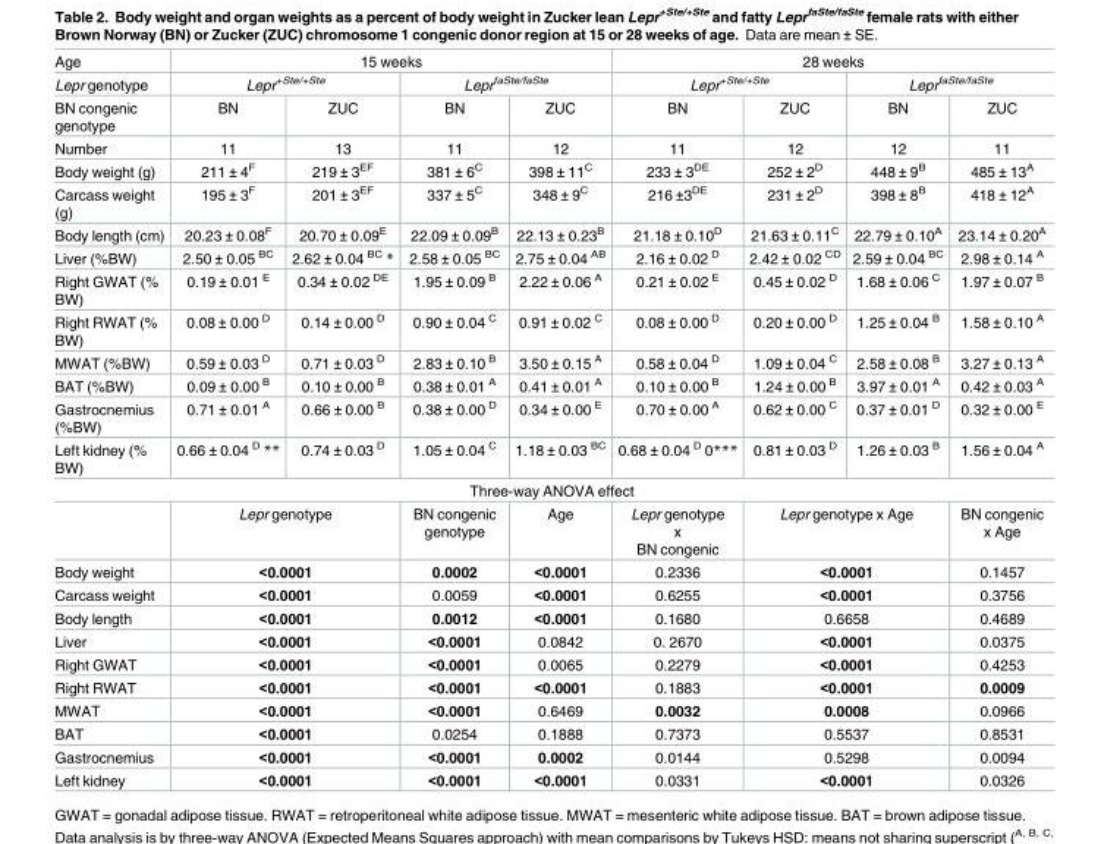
<table><tbody><tr><td>Age</td><td colspan="4">15 weeks</td><td colspan="4">28 weeks</td></tr><tr><td>Lepr genotype</td><td colspan="2">Lepr<sup>+Ste/+Ste</sup></td><td colspan="2">Lepr<sup>faSte/faSte</sup></td><td colspan="2">Lepr<sup>+Ste/+Ste</sup></td><td colspan="2">Lepr<sup>faSte/faSte</sup></td></tr><tr><td>BN congenic genotype</td><td>BN</td><td>ZUC</td><td>BN</td><td>ZUC</td><td>BN</td><td>ZUC</td><td>BN</td><td>ZUC</td></tr><tr><td>Number</td><td>11</td><td>13</td><td>11</td><td>12</td><td>11</td><td>12</td><td>12</td><td>11</td></tr><tr><td>Body weight (g)</td><td>211 ± 4<sup>F</sup></td><td>219 ± 3<sup>EF</sup></td><td>381 ± 6<sup>C</sup></td><td>398 ± 11<sup>C</sup></td><td>233 ± 3<sup>DE</sup></td><td>252 ± 2<sup>D</sup></td><td>448 ± 9<sup>B</sup></td><td>485 ± 13<sup>A</sup></td></tr><tr><td>Carcass weight (g)</td><td>195 ± 3<sup>F</sup></td><td>201 ± 3<sup>EF</sup></td><td>337 ± 5<sup>C</sup></td><td>348 ± 9<sup>C</sup></td><td>216 ±3<sup>DE</sup></td><td>231 ± 2<sup>D</sup></td><td>398 ± 8<sup>B</sup></td><td>418 ± 12<sup>A</sup></td></tr><tr><td>Body length (cm)</td><td>20.23 ± 0.08<sup>F</sup></td><td>20.70 ± 0.09<sup>E</sup></td><td>22.09 ± 0.09<sup>B</sup></td><td>22.13 ± 0.23<sup>B</sup></td><td>21.18 ± 0.10<sup>D</sup></td><td>21.63 ± 0.11<sup>C</sup></td><td>22.79 ± 0.10<sup>A</sup></td><td>23.14 ± 0.20<sup>A</sup></td></tr><tr><td>Liver (%BW)</td><td>2.50 ± 0.05 <sup>BC</sup></td><td>2.62 ± 0.04 <sup>BC</sup> *</td><td>2.58 ± 0.05 <sup>BC</sup></td><td>2.75 ± 0.04 <sup>AB</sup></td><td>2.16 ± 0.02 <sup>D</sup></td><td>2.42 ± 0.02 <sup>CD</sup></td><td>2.59 ± 0.04 <sup>BC</sup></td><td>2.98 ± 0.14 <sup>A</sup></td></tr><tr><td>Right GWAT (% BW)</td><td>0.19 ± 0.01 <sup>E</sup></td><td>0.34 ± 0.02 <sup>DE</sup></td><td>1.95 ± 0.09 <sup>B</sup></td><td>2.22 ± 0.06 <sup>A</sup></td><td>0.21 ± 0.02 <sup>E</sup></td><td>0.45 ± 0.02 <sup>D</sup></td><td>1.68 ± 0.06 <sup>C</sup></td><td>1.97 ± 0.07 <sup>B</sup></td></tr><tr><td>Right RWAT (% BW)</td><td>0.08 ± 0.00 <sup>D</sup></td><td>0.14 ± 0.00 <sup>D</sup></td><td>0.90 ± 0.04 <sup>C</sup></td><td>0.91 ± 0.02 <sup>C</sup></td><td>0.08 ± 0.00 <sup>D</sup></td><td>0.20 ± 0.00 <sup>D</sup></td><td>1.25 ± 0.04 <sup>B</sup></td><td>1.58 ± 0.10 <sup>A</sup></td></tr><tr><td>MWAT (%BW)</td><td>0.59 ± 0.03 <sup>D</sup></td><td>0.71 ± 0.03 <sup>D</sup></td><td>2.83 ± 0.10 <sup>B</sup></td><td>3.50 ± 0.15 <sup>A</sup></td><td>0.58 ± 0.04 <sup>D</sup></td><td>1.09 ± 0.04 <sup>C</sup></td><td>2.58 ± 0.08 <sup>B</sup></td><td>3.27 ± 0.13 <sup>A</sup></td></tr><tr><td>BAT (%BW)</td><td>0.09 ± 0.00 <sup>B</sup></td><td>0.10 ± 0.00 <sup>B</sup></td><td>0.38 ± 0.01 <sup>A</sup></td><td>0.41 ± 0.01 <sup>A</sup></td><td>0.10 ± 0.00 <sup>B</sup></td><td>1.24 ± 0.00 <sup>B</sup></td><td>3.97 ± 0.01 <sup>A</sup></td><td>0.42 ± 0.03 <sup>A</sup></td></tr><tr><td>Gastrocnemius (%BW)</td><td>0.71 ± 0.01 <sup>A</sup></td><td>0.66 ± 0.00 <sup>B</sup></td><td>0.38 ± 0.00 <sup>D</sup></td><td>0.34 ± 0.00 <sup>E</sup></td><td>0.70 ± 0.00 <sup>A</sup></td><td>0.62 ± 0.00 <sup>C</sup></td><td>0.37 ± 0.01 <sup>D</sup></td><td>0.32 ± 0.00 <sup>E</sup></td></tr><tr><td>Left kidney (% BW)</td><td>0.66 ± 0.04 <sup>D</sup> **</td><td>0.74 ± 0.03 <sup>D</sup></td><td>1.05 ± 0.04 <sup>C</sup></td><td>1.18 ± 0.03 <sup>BC</sup></td><td>0.68 ± 0.04 D 0***</td><td>0.81 ± 0.03 <sup>D</sup></td><td>1.26 ± 0.03 <sup>B</sup></td><td>1.56 ± 0.04 <sup>A</sup></td></tr><tr><td colspan="9">Three-way ANOVA effect</td></tr><tr><td></td><td colspan="2">Lepr genotype</td><td>BN congenic genotype</td><td>Age</td><td>Lepr genotype x BN congenic</td><td colspan="2">Lepr genotype x Age</td><td>BN congenic x Age</td></tr><tr><td>Body weight</td><td colspan="2">&lt;0.0001</td><td>0.0002</td><td>&lt;0.0001</td><td>0.2336</td><td colspan="2">&lt;0.0001</td><td>0.1457</td></tr><tr><td>Carcass weight</td><td colspan="2">&lt;0.0001</td><td>0.0059</td><td>&lt;0.0001</td><td>0.6255</td><td colspan="2">&lt;0.0001</td><td>0.3756</td></tr><tr><td>Body length</td><td colspan="2">&lt;0.0001</td><td>0.0012</td><td>&lt;0.0001</td><td>0.1680</td><td colspan="2">0.6658</td><td>0.4689</td></tr><tr><td>Liver</td><td colspan="2">&lt;0.0001</td><td>&lt;0.0001</td><td>0.0842</td><td>0. 2670</td><td colspan="2">&lt;0.0001</td><td>0.0375</td></tr><tr><td>Right GWAT</td><td colspan="2">&lt;0.0001</td><td>&lt;0.0001</td><td>0.0065</td><td>0.2279</td><td colspan="2">&lt;0.0001</td><td>0.4253</td></tr><tr><td>Right RWAT</td><td colspan="2">&lt;0.0001</td><td>&lt;0.0001</td><td>&lt;0.0001</td><td>0.1883</td><td colspan="2">&lt;0.0001</td><td>0.0009</td></tr><tr><td>MWAT</td><td colspan="2">&lt;0.0001</td><td>&lt;0.0001</td><td>0.6469</td><td>0.0032</td><td colspan="2">0.0008</td><td>0.0966</td></tr><tr><td>BAT</td><td colspan="2">&lt;0.0001</td><td>0.0254</td><td>0.1888</td><td>0.7373</td><td colspan="2">0.5537</td><td>0.8531</td></tr><tr><td>Gastrocnemius</td><td colspan="2">&lt;0.0001</td><td>&lt;0.0001</td><td>0.0002</td><td>0.0144</td><td colspan="2">0.5298</td><td>0.0094</td></tr><tr><td>Left kidney</td><td colspan="2">&lt;0.0001</td><td>&lt;0.0001</td><td>&lt;0.0001</td><td>0.0331</td><td colspan="2">&lt;0.0001</td><td>0.0326</td></tr></tbody></table>